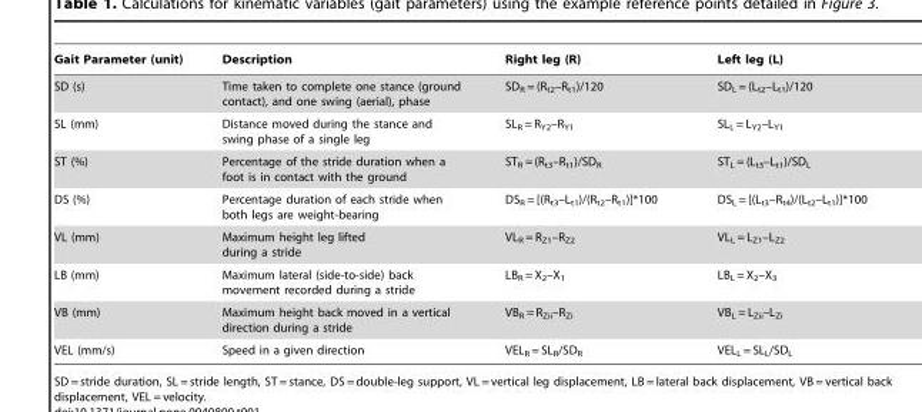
<table><thead><tr><td>Gait Parameter (unit)</td><td>Description</td><td>Right leg (R)</td><td>Left leg (L)</td></tr></thead><tbody><tr><td>SD (s)</td><td>Time taken to complete one stance (ground contact), and one swing (aerial), phase</td><td>SD<sub>R</sub> = (R<sub>t2</sub>–R<sub>t1</sub>)/120</td><td>SD<sub>L</sub> = (L<sub>t2</sub>–L<sub>t1</sub>)/120</td></tr><tr><td>SL (mm)</td><td>Distance moved during the stance and swing phase of a single leg</td><td>SL<sub>R</sub> = R<sub>Y2</sub>–R<sub>Y1</sub></td><td>SL<sub>L</sub> = L<sub>Y2</sub>–L<sub>Y1</sub></td></tr><tr><td>ST (%)</td><td>Percentage of the stride duration when a foot is in contact with the ground</td><td>ST<sub>R</sub> = (R<sub>t3</sub>–R<sub>t1</sub>)/SD<sub>R</sub></td><td>ST<sub>L</sub> = (L<sub>t3</sub>–L<sub>t1</sub>)/SD<sub>L</sub></td></tr><tr><td>DS (%)</td><td>Percentage duration of each stride when both legs are weight-bearing</td><td>DS<sub>R</sub> = [(R<sub>t3</sub>–L<sub>t1</sub>)/(R<sub>t2</sub>–R<sub>t1</sub>)]*100</td><td>DS<sub>L</sub> = [(L<sub>t3</sub>–R<sub>t4</sub>)/(L<sub>t2</sub>–L<sub>t1</sub>)]*100</td></tr><tr><td>VL (mm)</td><td>Maximum height leg lifted during a stride</td><td>VL<sub>R</sub> = R<sub>Z1</sub>–R<sub>Z2</sub></td><td>VL<sub>L</sub> = L<sub>Z1</sub>–L<sub>Z2</sub></td></tr><tr><td>LB (mm)</td><td>Maximum lateral (side-to-side) back movement recorded during a stride</td><td>LB<sub>R</sub> = X<sub>2</sub>–X<sub>1</sub></td><td>LB<sub>L</sub> = X<sub>2</sub>–X<sub>3</sub></td></tr><tr><td>VB (mm)</td><td>Maximum height back moved in a vertical direction during a stride</td><td>VB<sub>R</sub> = R<sub>Zii</sub>–R<sub>Zi</sub></td><td>VB<sub>L</sub> = L<sub>Zii</sub>–L<sub>Zi</sub></td></tr><tr><td>VEL (mm/s)</td><td>Speed in a given direction</td><td>VEL<sub>R</sub> = SL<sub>R</sub>/SD<sub>R</sub></td><td>VEL<sub>L</sub> = SL<sub>L</sub>/SD<sub>L</sub></td></tr></tbody></table>